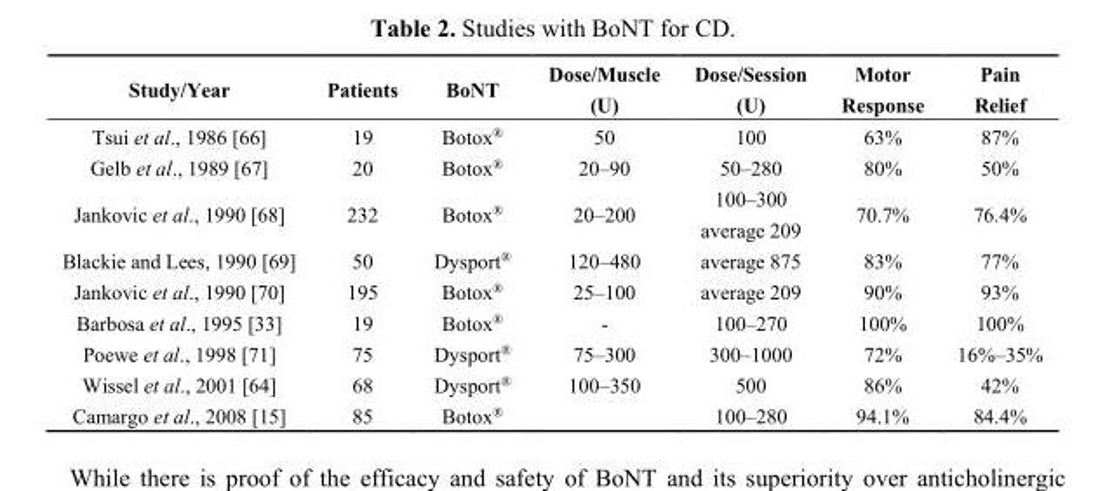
<table><thead><tr><td>Study/Year</td><td>Patients</td><td>BoNT</td><td>Dose/Muscle (U)</td><td>Dose/Session (U)</td><td>Motor Response</td><td>Pain Relief</td></tr></thead><tbody><tr><td>Tsui et al., 1986 [66]</td><td>19</td><td>Botox<sup>®</sup></td><td>50</td><td>100</td><td>63%</td><td>87%</td></tr><tr><td>Gelb et al., 1989 [67]</td><td>20</td><td>Botox<sup>®</sup></td><td>20–90</td><td>50–280</td><td>80%</td><td>50%</td></tr><tr><td>Jankovic et al., 1990 [68]</td><td>232</td><td>Botox<sup>®</sup></td><td>20–200</td><td>100–300 average 209</td><td>70.7%</td><td>76.4%</td></tr><tr><td>Blackie and Lees, 1990 [69]</td><td>50</td><td>Dysport<sup>®</sup></td><td>120–480</td><td>average 875</td><td>83%</td><td>77%</td></tr><tr><td>Jankovic et al., 1990 [70]</td><td>195</td><td>Botox<sup>®</sup></td><td>25–100</td><td>average 209</td><td>90%</td><td>93%</td></tr><tr><td>Barbosa et al., 1995 [33]</td><td>19</td><td>Botox<sup>®</sup></td><td>-</td><td>100–270</td><td>100%</td><td>100%</td></tr><tr><td>Poewe et al., 1998 [71]</td><td>75</td><td>Dysport<sup>®</sup></td><td>75–300</td><td>300–1000</td><td>72%</td><td>16%–35%</td></tr><tr><td>Wissel et al., 2001 [64]</td><td>68</td><td>Dysport<sup>®</sup></td><td>100–350</td><td>500</td><td>86%</td><td>42%</td></tr><tr><td>Camargo et al., 2008 [15]</td><td>85</td><td>Botox<sup>®</sup></td><td></td><td>100–280</td><td>94.1%</td><td>84.4%</td></tr></tbody></table>